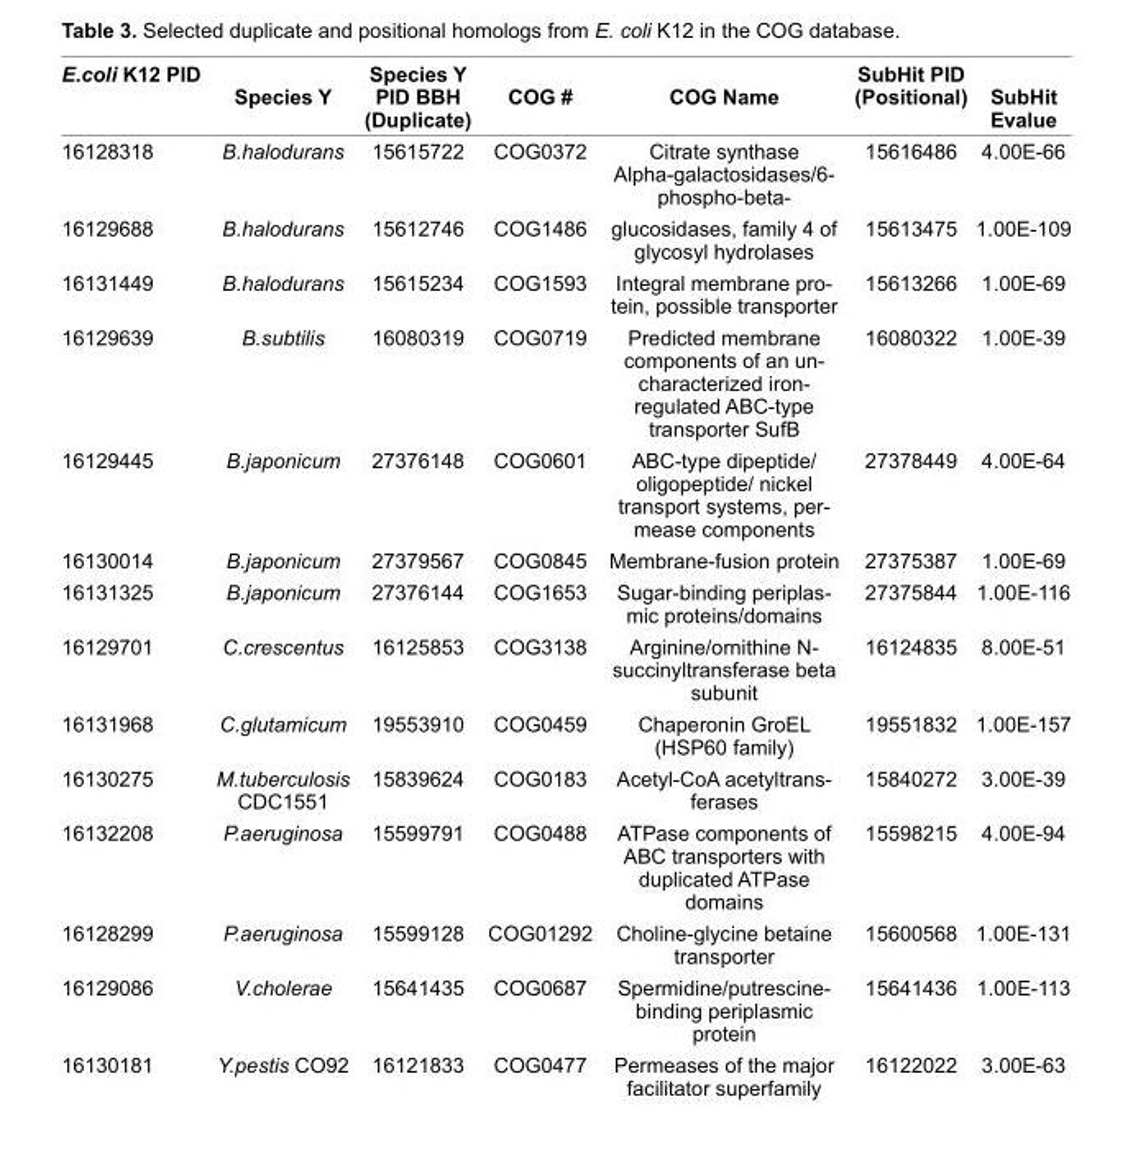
<table><thead><tr><td>E.coli K12 PID</td><td>Species Y</td><td>Species Y PID BBH (Duplicate)</td><td>COG #</td><td>COG Name</td><td>SubHit PID (Positional)</td><td>SubHit Evalue</td></tr></thead><tbody><tr><td>16128318</td><td>B.halodurans</td><td>15615722</td><td>COG0372</td><td>Citrate synthase Alpha-galactosidases/6- phospho-beta-</td><td>15616486</td><td>4.00E-66</td></tr><tr><td>16129688</td><td>B.halodurans</td><td>15612746</td><td>COG1486</td><td>glucosidases, family 4 of glycosyl hydrolases</td><td>15613475</td><td>1.00E-109</td></tr><tr><td>16131449</td><td>B.halodurans</td><td>15615234</td><td>COG1593</td><td>Integral membrane pro- tein, possible transporter</td><td>15613266</td><td>1.00E-69</td></tr><tr><td>16129639</td><td>B.subtilis</td><td>16080319</td><td>COG0719</td><td>Predicted membrane components of an un- characterized iron- regulated ABC-type transporter SufB</td><td>16080322</td><td>1.00E-39</td></tr><tr><td>16129445</td><td>B.japonicum</td><td>27376148</td><td>COG0601</td><td>ABC-type dipeptide/ oligopeptide/ nickel transport systems, per- mease components</td><td>27378449</td><td>4.00E-64</td></tr><tr><td>16130014</td><td>B.japonicum</td><td>27379567</td><td>COG0845</td><td>Membrane-fusion protein</td><td>27375387</td><td>1.00E-69</td></tr><tr><td>16131325</td><td>B.japonicum</td><td>27376144</td><td>COG1653</td><td>Sugar-binding periplas- mic proteins/domains</td><td>27375844</td><td>1.00E-116</td></tr><tr><td>16129701</td><td>C.crescentus</td><td>16125853</td><td>COG3138</td><td>Arginine/ornithine N- succinyltransferase beta subunit</td><td>16124835</td><td>8.00E-51</td></tr><tr><td>16131968</td><td>C.glutamicum</td><td>19553910</td><td>COG0459</td><td>Chaperonin GroEL (HSP60 family)</td><td>19551832</td><td>1.00E-157</td></tr><tr><td>16130275</td><td>M.tuberculosis CDC1551</td><td>15839624</td><td>COG0183</td><td>Acetyl-CoA acetyltrans- ferases</td><td>15840272</td><td>3.00E-39</td></tr><tr><td>16132208</td><td>P.aeruginosa</td><td>15599791</td><td>COG0488</td><td>ATPase components of ABC transporters with duplicated ATPase domains</td><td>15598215</td><td>4.00E-94</td></tr><tr><td>16128299</td><td>P.aeruginosa</td><td>15599128</td><td>COG01292</td><td>Choline-glycine betaine transporter</td><td>15600568</td><td>1.00E-131</td></tr><tr><td>16129086</td><td>V.cholerae</td><td>15641435</td><td>COG0687</td><td>Spermidine/putrescine- binding periplasmic protein</td><td>15641436</td><td>1.00E-113</td></tr><tr><td>16130181</td><td>Y.pestis CO92</td><td>16121833</td><td>COG0477</td><td>Permeases of the major facilitator superfamily</td><td>16122022</td><td>3.00E-63</td></tr></tbody></table>